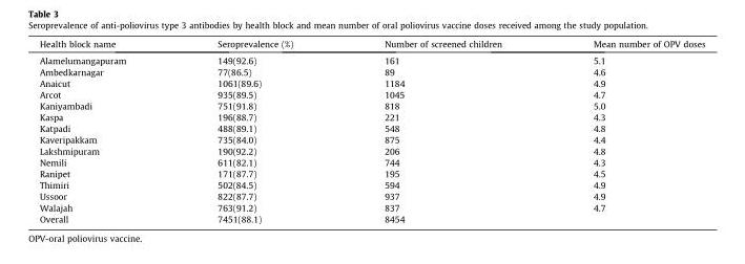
<table><thead><tr><td>Health block name</td><td>Seroprevalence (%)</td><td>Number of screened children</td><td>Mean number of OPV doses</td></tr></thead><tbody><tr><td>Alamelumangapuram</td><td>149(92.6)</td><td>161</td><td>5.1</td></tr><tr><td>Ambedkarnagar</td><td>77(86.5)</td><td>89</td><td>4.6</td></tr><tr><td>Anaicut</td><td>1061(89.6)</td><td>1184</td><td>4.9</td></tr><tr><td>Arcot</td><td>935(89.5)</td><td>1045</td><td>4.7</td></tr><tr><td>Kaniyambadi</td><td>751(91.8)</td><td>818</td><td>5.0</td></tr><tr><td>Kaspa</td><td>196(88.7)</td><td>221</td><td>4.3</td></tr><tr><td>Katpadi</td><td>488(89.1)</td><td>548</td><td>4.8</td></tr><tr><td>Kaveripakkam</td><td>735(84.0)</td><td>875</td><td>4.4</td></tr><tr><td>Lakshmipuram</td><td>190(92.2)</td><td>206</td><td>4.8</td></tr><tr><td>Nemili</td><td>611(82.1)</td><td>744</td><td>4.3</td></tr><tr><td>Ranipet</td><td>171(87.7)</td><td>195</td><td>4.5</td></tr><tr><td>Thimiri</td><td>502(84.5)</td><td>594</td><td>4.9</td></tr><tr><td>Ussoor</td><td>822(87.7)</td><td>937</td><td>4.9</td></tr><tr><td>Walajah</td><td>763(91.2)</td><td>837</td><td>4.7</td></tr><tr><td>Overall</td><td>7451(88.1)</td><td>8454</td><td></td></tr></tbody></table>